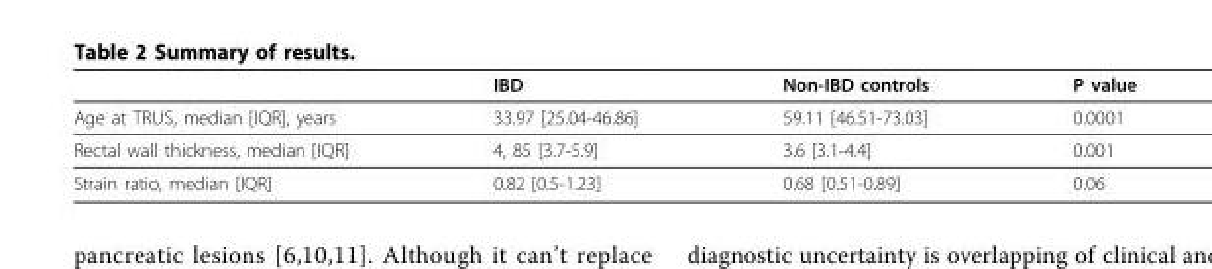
<table><thead><tr><td></td><td>IBD</td><td>Non-IBD controls</td><td>P value</td></tr></thead><tbody><tr><td>Age at TRUS, median [IQR], years</td><td>33.97 [25.04-46.86]</td><td>59.11 [46.51-73.03]</td><td>0.0001</td></tr><tr><td>Rectal wall thickness, median [IQR]</td><td>4, 85 [3.7-5.9]</td><td>3.6 [3.1-4.4]</td><td>0.001</td></tr><tr><td>Strain ratio, median [IQR]</td><td>0.82 [0.5-1.23]</td><td>0.68 [0.51-0.89]</td><td>0.06</td></tr></tbody></table>